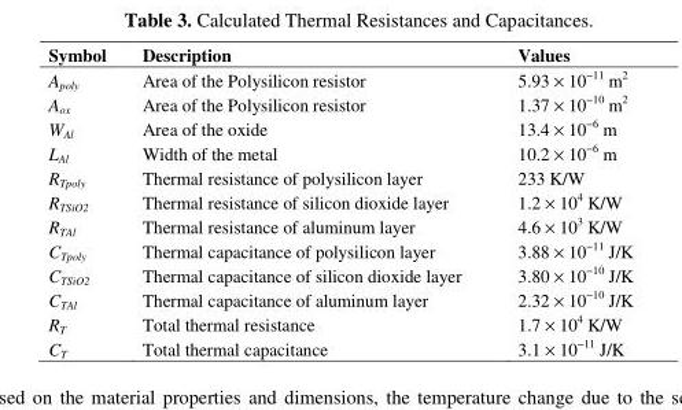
<table><thead><tr><td>Symbol</td><td>Description</td><td>Values</td></tr></thead><tbody><tr><td>A<sub>poly</sub></td><td>Area of the Polysilicon resistor</td><td>5.93 × 10<sup>−11</sup> m<sup>2</sup></td></tr><tr><td>A<sub>ox</sub></td><td>Area of the Polysilicon resistor</td><td>1.37 × 10<sup>−10</sup> m<sup>2</sup></td></tr><tr><td>W<sub>Al</sub></td><td>Area of the oxide</td><td>13.4 × 10<sup>−6</sup> m</td></tr><tr><td>L<sub>Al</sub></td><td>Width of the metal</td><td>10.2 × 10<sup>−6</sup> m</td></tr><tr><td>R<sub>Tpoly</sub></td><td>Thermal resistance of polysilicon layer</td><td>233 K/W</td></tr><tr><td>R<sub>TSiO2</sub></td><td>Thermal resistance of silicon dioxide layer</td><td>1.2 × 104 K/W</td></tr><tr><td>R<sub>TAl</sub></td><td>Thermal resistance of aluminum layer</td><td>4.6 × 103 K/W</td></tr><tr><td>C<sub>Tpoly</sub></td><td>Thermal capacitance of polysilicon layer</td><td>3.88 × 10<sup>−11</sup> J/K</td></tr><tr><td>C<sub>TSiO2</sub></td><td>Thermal capacitance of silicon dioxide layer</td><td>3.80 × 10<sup>−10</sup> J/K</td></tr><tr><td>C<sub>TAl</sub></td><td>Thermal capacitance of aluminum layer</td><td>2.32 × 10<sup>−10</sup> J/K</td></tr><tr><td>R<sub>T</sub></td><td>Total thermal resistance</td><td>1.7 × 10<sup>4</sup> K/W</td></tr><tr><td>C<sub>T</sub></td><td>Total thermal capacitance</td><td>3.1 × 10<sup>−11</sup> J/K</td></tr></tbody></table>